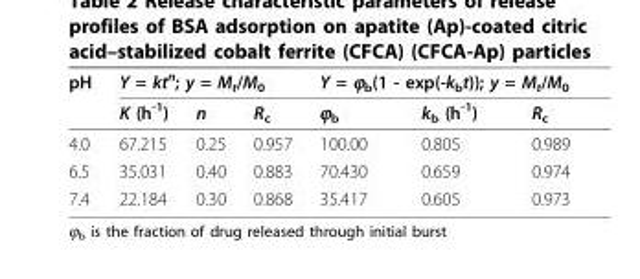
<table><thead><tr><td rowspan="2">pH</td><td colspan="3">Y = kt<sup>n</sup>; y = M<sub>t</sub>/M<sub>0</sub></td><td colspan="3">Y = φ<sub>b</sub>(1 - exp(-k<sub>b</sub>t)); y = M<sub>t</sub>/M<sub>0</sub></td></tr><tr><td>K (h<sup>-1</sup>)</td><td>n</td><td>R<sub>c</sub></td><td>φ<sub>b</sub></td><td>k<sub>b</sub> (h<sup>-1</sup>)</td><td>R<sub>c</sub></td></tr></thead><tbody><tr><td>4.0</td><td>67.215</td><td>0.25</td><td>0.957</td><td>100.00</td><td>0.805</td><td>0.989</td></tr><tr><td>6.5</td><td>35.031</td><td>0.40</td><td>0.883</td><td>70.430</td><td>0.659</td><td>0.974</td></tr><tr><td>7.4</td><td>22.184</td><td>0.30</td><td>0.868</td><td>35.417</td><td>0.605</td><td>0.973</td></tr></tbody></table>